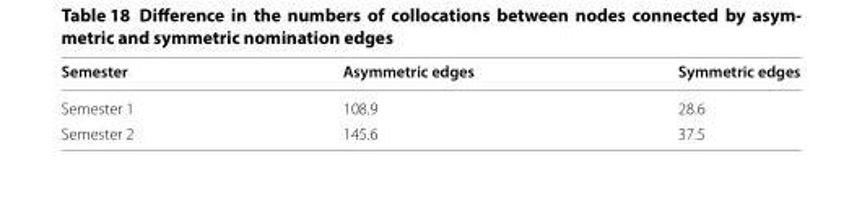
<table><thead><tr><td>Semester</td><td>Asymmetric edges</td><td>Symmetric edges</td></tr></thead><tbody><tr><td>Semester 1</td><td>108.9</td><td>28.6</td></tr><tr><td>Semester 2</td><td>145.6</td><td>37.5</td></tr></tbody></table>